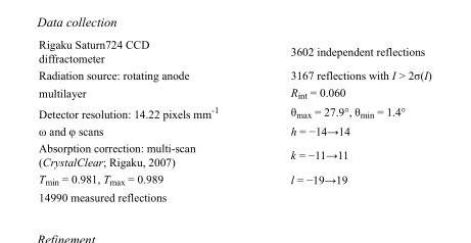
<table><tbody><tr><td>Rigaku Saturn724 CCD diffractometer</td><td>3602 independent reflections</td></tr><tr><td>Radiation source: rotating anode</td><td>3167 reflections with I &gt; 2σ(I)</td></tr><tr><td>multilayer</td><td>R<sub>int</sub> = 0.060</td></tr><tr><td>Detector resolution: 14.22 pixels mm<sup>-1</sup></td><td>θ<sub>max</sub> = 27.9°, θ<sub>min</sub> = 1.4°</td></tr><tr><td>ω and φ scans</td><td>h = −14→14</td></tr><tr><td>Absorption correction: multi-scan (CrystalClear; Rigaku, 2007)</td><td>k = −11→11</td></tr><tr><td>T<sub>min</sub> = 0.981, T<sub>max</sub> = 0.989</td><td>l = −19→19</td></tr><tr><td>14990 measured reflections</td><td></td></tr></tbody></table>